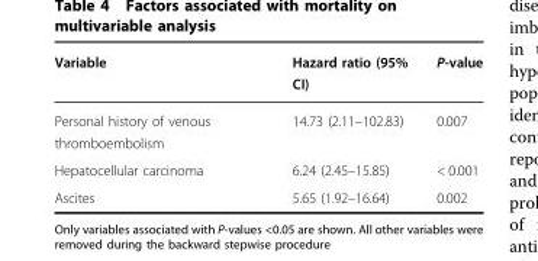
<table><thead><tr><td>Variable</td><td>Hazard ratio (95% CI)</td><td>P-value</td></tr></thead><tbody><tr><td>Personal history of venous thromboembolism</td><td>14.73 (2.11–102.83)</td><td>0.007</td></tr><tr><td>Hepatocellular carcinoma</td><td>6.24 (2.45–15.85)</td><td>&lt; 0.001</td></tr><tr><td>Ascites</td><td>5.65 (1.92–16.64)</td><td>0.002</td></tr></tbody></table>